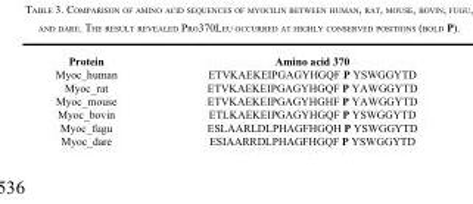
<table><thead><tr><td>Protein</td><td>Amino acid 370</td></tr></thead><tbody><tr><td>Myoc_human</td><td>ETVKAEKEIPGAGYHGQF P YSWGGYTD</td></tr><tr><td>Myoc_rat</td><td>ETVKAEKEIPGAGYHGQF P YAWGGYTD</td></tr><tr><td>Myoc_mouse</td><td>ETVKAEKEIPGAGYHGHF P YAWGGYTD</td></tr><tr><td>Myoc_bovin</td><td>ETLKAEKEIPGAGYHGQF P YSWGGYTD</td></tr><tr><td>Myoc_fugu</td><td>ESLAARLDLPHAGFHGQH P YSWGGYTD</td></tr><tr><td>Myoc_dare</td><td>ESIAARRDLPHAGFHGQF P YSWGGYTD</td></tr></tbody></table>